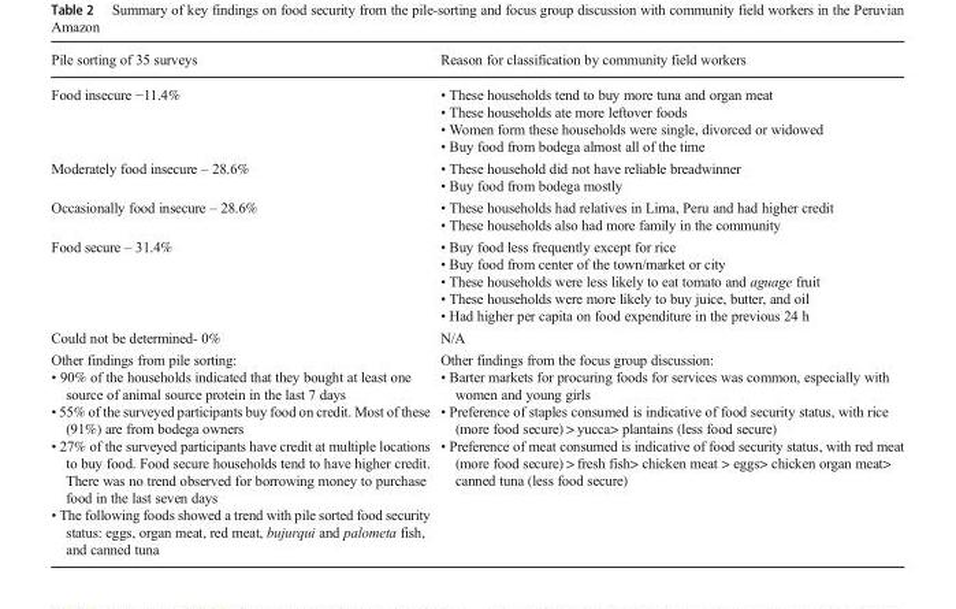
<table><thead><tr><td>Pile sorting of 35 surveys</td><td>Reason for classification by community field workers</td></tr></thead><tbody><tr><td>Food insecure −11.4%</td><td>• These households tend to buy more tuna and organ meat • These households ate more leftover foods • Women form these households were single, divorced or widowed • Buy food from bodega almost all of the time</td></tr><tr><td>Moderately food insecure – 28.6%</td><td>• These household did not have reliable breadwinner • Buy food from bodega mostly</td></tr><tr><td>Occasionally food insecure – 28.6%</td><td>• These households had relatives in Lima, Peru and had higher credit • These households also had more family in the community</td></tr><tr><td>Food secure – 31.4%</td><td>• Buy food less frequently except for rice • Buy food from center of the town/market or city • These households were less likely to eat tomato and aguage fruit • These households were more likely to buy juice, butter, and oil • Had higher per capita on food expenditure in the previous 24 h</td></tr><tr><td>Could not be determined- 0%</td><td>N/A</td></tr><tr><td>Other findings from pile sorting: • 90% of the households indicated that they bought at least one source of animal source protein in the last 7 days • 55% of the surveyed participants buy food on credit. Most of these (91%) are from bodega owners • 27% of the surveyed participants have credit at multiple locations to buy food. Food secure households tend to have higher credit. There was no trend observed for borrowing money to purchase food in the last seven days • The following foods showed a trend with pile sorted food security status: eggs, organ meat, red meat, bujurqui and palometa fish, and canned tuna</td><td>Other findings from the focus group discussion: • Barter markets for procuring foods for services was common, especially with women and young girls • Preference of staples consumed is indicative of food security status, with rice (more food secure) &gt; yucca&gt; plantains (less food secure) • Preference of meat consumed is indicative of food security status, with red meat (more food secure) &gt; fresh fish&gt; chicken meat &gt; eggs&gt; chicken organ meat&gt; canned tuna (less food secure)</td></tr></tbody></table>